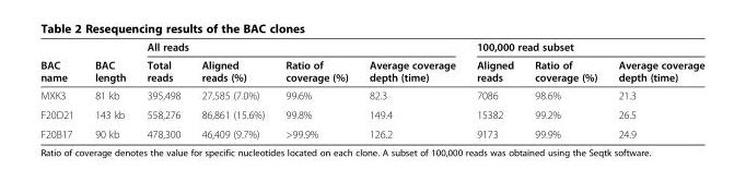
<table><thead><tr><td rowspan="2">BAC name</td><td rowspan="2">BAC length</td><td colspan="4">All reads</td><td colspan="3">100,000 read subset</td></tr><tr><td>Total reads</td><td>Aligned reads (%)</td><td>Ratio of coverage (%)</td><td>Average coverage depth (time)</td><td>Aligned reads</td><td>Ratio of coverage (%)</td><td>Average coverage depth (time)</td></tr></thead><tbody><tr><td>MXK3</td><td>81 kb</td><td>395,498</td><td>27,585 (7.0%)</td><td>99.6%</td><td>82.3</td><td>7086</td><td>98.6%</td><td>21.3</td></tr><tr><td>F20D21</td><td>143 kb</td><td>558,276</td><td>86,861 (15.6%)</td><td>99.8%</td><td>149.4</td><td>15382</td><td>99.2%</td><td>26.5</td></tr><tr><td>F20B17</td><td>90 kb</td><td>478,300</td><td>46,409 (9.7%)</td><td>&gt;99.9%</td><td>126.2</td><td>9173</td><td>99.9%</td><td>24.9</td></tr></tbody></table>